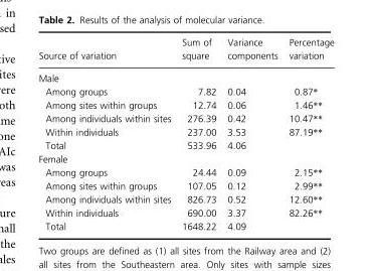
<table><thead><tr><td>Source of variation</td><td>Sum of square</td><td>Variance components</td><td>Percentage variation</td></tr></thead><tbody><tr><td colspan="4">Male</td></tr><tr><td>Among groups</td><td>7.82</td><td>0.04</td><td>0.87*</td></tr><tr><td>Among sites within groups</td><td>12.74</td><td>0.06</td><td>1.46**</td></tr><tr><td>Among individuals within sites</td><td>276.39</td><td>0.42</td><td>10.47**</td></tr><tr><td>Within individuals</td><td>237.00</td><td>3.53</td><td>87.19**</td></tr><tr><td>Total</td><td>533.96</td><td>4.06</td><td></td></tr><tr><td colspan="4">Female</td></tr><tr><td>Among groups</td><td>24.44</td><td>0.09</td><td>2.15**</td></tr><tr><td>Among sites within groups</td><td>107.05</td><td>0.12</td><td>2.99**</td></tr><tr><td>Among individuals within sites</td><td>826.73</td><td>0.52</td><td>12.60**</td></tr><tr><td>Within individuals</td><td>690.00</td><td>3.37</td><td>82.26**</td></tr><tr><td>Total</td><td>1648.22</td><td>4.09</td><td></td></tr></tbody></table>